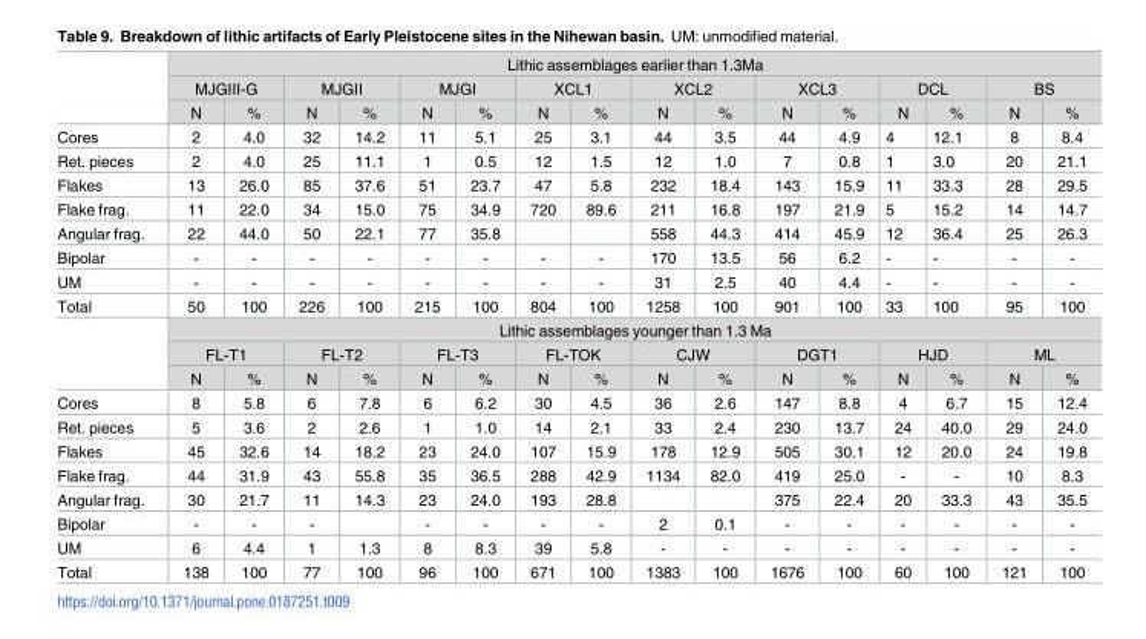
<table><thead><tr><td rowspan="3"></td><td colspan="16">Lithic assemblages earlier than 1.3Ma</td></tr><tr><td colspan="2">MJGIII-G</td><td colspan="2">MJGII</td><td colspan="2">MJGI</td><td colspan="2">XCL1</td><td colspan="2">XCL2</td><td colspan="2">XCL3</td><td colspan="2">DCL</td><td colspan="2">BS</td></tr><tr><td>N</td><td>%</td><td>N</td><td>%</td><td>N</td><td>%</td><td>N</td><td>%</td><td>N</td><td>%</td><td>N</td><td>%</td><td>N</td><td>%</td><td>N</td><td>%</td></tr></thead><tbody><tr><td>Cores</td><td>2</td><td>4.0</td><td>32</td><td>14.2</td><td>11</td><td>5.1</td><td>25</td><td>3.1</td><td>44</td><td>3.5</td><td>44</td><td>4.9</td><td>4</td><td>12.1</td><td>8</td><td>8.4</td></tr><tr><td>Ret. pieces</td><td>2</td><td>4.0</td><td>25</td><td>11.1</td><td>1</td><td>0.5</td><td>12</td><td>1.5</td><td>12</td><td>1.0</td><td>7</td><td>0.8</td><td>1</td><td>3.0</td><td>20</td><td>21.1</td></tr><tr><td>Flakes</td><td>13</td><td>26.0</td><td>85</td><td>37.6</td><td>51</td><td>23.7</td><td>47</td><td>5.8</td><td>232</td><td>18.4</td><td>143</td><td>15.9</td><td>11</td><td>33.3</td><td>28</td><td>29.5</td></tr><tr><td>Flake frag.</td><td>11</td><td>22.0</td><td>34</td><td>15.0</td><td>75</td><td>34.9</td><td>720</td><td>89.6</td><td>211</td><td>16.8</td><td>197</td><td>21.9</td><td>5</td><td>15.2</td><td>14</td><td>14.7</td></tr><tr><td>Angular frag.</td><td>22</td><td>44.0</td><td>50</td><td>22.1</td><td>77</td><td>35.8</td><td></td><td></td><td>558</td><td>44.3</td><td>414</td><td>45.9</td><td>12</td><td>36.4</td><td>25</td><td>26.3</td></tr><tr><td>Bipolar</td><td>-</td><td>-</td><td>-</td><td>-</td><td>-</td><td>-</td><td>-</td><td>-</td><td>170</td><td>13.5</td><td>56</td><td>6.2</td><td>-</td><td>-</td><td>-</td><td>-</td></tr><tr><td>UM</td><td>-</td><td>-</td><td>-</td><td>-</td><td>-</td><td>-</td><td>-</td><td>-</td><td>31</td><td>2.5</td><td>40</td><td>4.4</td><td>-</td><td>-</td><td>-</td><td>-</td></tr><tr><td rowspan="4">Total</td><td>50</td><td>100</td><td>226</td><td>100</td><td>215</td><td>100</td><td>804</td><td>100</td><td>1258</td><td>100</td><td>901</td><td>100</td><td>33</td><td>100</td><td>95</td><td>100</td></tr><tr><td colspan="16">Lithic assemblages younger than 1.3 Ma</td></tr><tr><td colspan="2">FL-T1</td><td colspan="2">FL-T2</td><td colspan="2">FL-T3</td><td colspan="2">FL-TOK</td><td colspan="2">CJW</td><td colspan="2">DGT1</td><td colspan="2">HJD</td><td colspan="2">ML</td></tr><tr><td>N</td><td>%</td><td>N</td><td>%</td><td>N</td><td>%</td><td>N</td><td>%</td><td>N</td><td>%</td><td>N</td><td>%</td><td>N</td><td>%</td><td>N</td><td>%</td></tr><tr><td>Cores</td><td>8</td><td>5.8</td><td>6</td><td>7.8</td><td>6</td><td>6.2</td><td>30</td><td>4.5</td><td>36</td><td>2.6</td><td>147</td><td>8.8</td><td>4</td><td>6.7</td><td>15</td><td>12.4</td></tr><tr><td>Ret. pieces</td><td>5</td><td>3.6</td><td>2</td><td>2.6</td><td>1</td><td>1.0</td><td>14</td><td>2.1</td><td>33</td><td>2.4</td><td>230</td><td>13.7</td><td>24</td><td>40.0</td><td>29</td><td>24.0</td></tr><tr><td>Flakes</td><td>45</td><td>32.6</td><td>14</td><td>18.2</td><td>23</td><td>24.0</td><td>107</td><td>15.9</td><td>178</td><td>12.9</td><td>505</td><td>30.1</td><td>12</td><td>20.0</td><td>24</td><td>19.8</td></tr><tr><td>Flake frag.</td><td>44</td><td>31.9</td><td>43</td><td>55.8</td><td>35</td><td>36.5</td><td>288</td><td>42.9</td><td>1134</td><td>82.0</td><td>419</td><td>25.0</td><td>-</td><td>-</td><td>10</td><td>8.3</td></tr><tr><td>Angular frag.</td><td>30</td><td>21.7</td><td>11</td><td>14.3</td><td>23</td><td>24.0</td><td>193</td><td>28.8</td><td></td><td></td><td>375</td><td>22.4</td><td>20</td><td>33.3</td><td>43</td><td>35.5</td></tr><tr><td>Bipolar</td><td>-</td><td>-</td><td>-</td><td></td><td>-</td><td>-</td><td>-</td><td>-</td><td>2</td><td>0.1</td><td>-</td><td>-</td><td>-</td><td>-</td><td>-</td><td>-</td></tr><tr><td>UM</td><td>6</td><td>4.4</td><td>1</td><td>1.3</td><td>8</td><td>8.3</td><td>39</td><td>5.8</td><td>-</td><td>-</td><td>-</td><td>-</td><td>-</td><td>-</td><td>-</td><td>-</td></tr><tr><td>Total</td><td>138</td><td>100</td><td>77</td><td>100</td><td>96</td><td>100</td><td>671</td><td>100</td><td>1383</td><td>100</td><td>1676</td><td>100</td><td>60</td><td>100</td><td>121</td><td>100</td></tr></tbody></table>